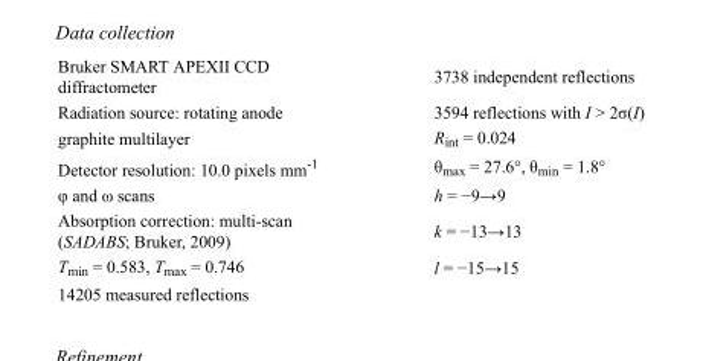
<table><tbody><tr><td>Bruker SMART APEXII CCD diffractometer</td><td>3738 independent reflections</td></tr><tr><td>Radiation source: rotating anode</td><td>3594 reflections with I &gt; 2σ(I)</td></tr><tr><td>graphite multilayer</td><td>R<sub>int</sub> = 0.024</td></tr><tr><td>Detector resolution: 10.0 pixels mm<sup>-1</sup></td><td>θ<sub>max</sub> = 27.6°, θ<sub>min</sub> = 1.8°</td></tr><tr><td>φ and ω scans</td><td>h = −9→9</td></tr><tr><td>Absorption correction: multi-scan (SADABS; Bruker, 2009)</td><td>k = −13→13</td></tr><tr><td>T<sub>min</sub> = 0.583, T<sub>max</sub> = 0.746</td><td>l = −15→15</td></tr><tr><td>14205 measured reflections</td><td></td></tr></tbody></table>